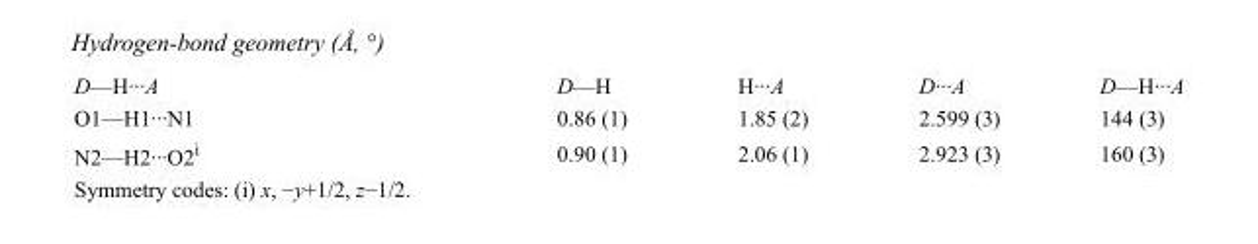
<table><tbody><tr><td>D—H···A</td><td>D—H</td><td>H···A</td><td>D···A</td><td>D—H···A</td></tr><tr><td>O1—H1···N1</td><td>0.86 (1)</td><td>1.85 (2)</td><td>2.599 (3)</td><td>144 (3)</td></tr><tr><td>N2—H2···O2<sup>i</sup></td><td>0.90 (1)</td><td>2.06 (1)</td><td>2.923 (3)</td><td>160 (3)</td></tr></tbody></table>